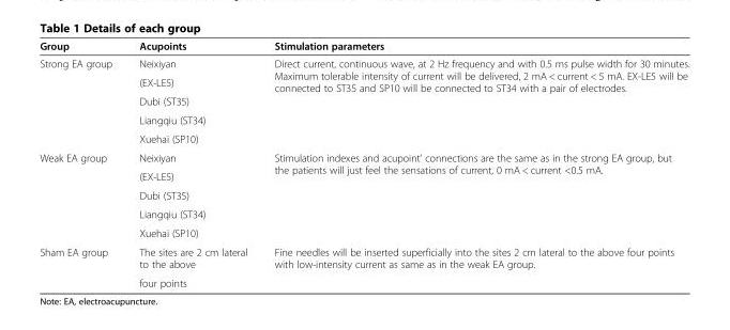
<table><thead><tr><td>Group</td><td>Acupoints</td><td>Stimulation parameters</td></tr></thead><tbody><tr><td rowspan="5">Strong EA group</td><td>Neixiyan</td><td rowspan="5">Direct current, continuous wave, at 2 Hz frequency and with 0.5 ms pulse width for 30 minutes. Maximum tolerable intensity of current will be delivered, 2 mA &lt; current &lt; 5 mA. EX-LE5 will be connected to ST35 and SP10 will be connected to ST34 with a pair of electrodes.</td></tr><tr><td>(EX-LE5)</td></tr><tr><td>Dubi (ST35)</td></tr><tr><td>Liangqiu (ST34)</td></tr><tr><td>Xuehai (SP10)</td></tr><tr><td rowspan="5">Weak EA group</td><td>Neixiyan</td><td rowspan="5">Stimulation indexes and acupoint’ connections are the same as in the strong EA group, but the patients will just feel the sensations of current, 0 mA &lt; current &lt;0.5 mA.</td></tr><tr><td>(EX-LE5)</td></tr><tr><td>Dubi (ST35)</td></tr><tr><td>Liangqiu (ST34)</td></tr><tr><td>Xuehai (SP10)</td></tr><tr><td rowspan="2">Sham EA group</td><td>The sites are 2 cm lateral to the above</td><td rowspan="2">Fine needles will be inserted superficially into the sites 2 cm lateral to the above four points with low-intensity current as same as in the weak EA group.</td></tr><tr><td>four points</td></tr></tbody></table>